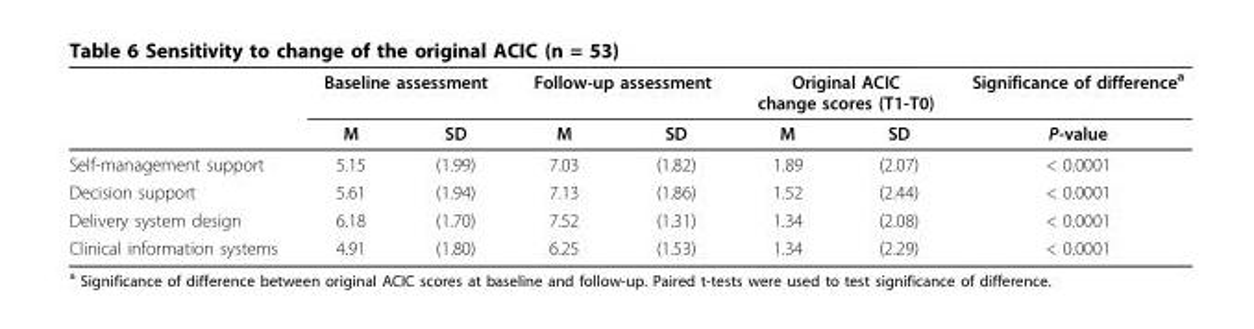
<table><thead><tr><td rowspan="2"></td><td colspan="2">Baseline assessment</td><td colspan="2">Follow-up assessment</td><td colspan="2">Original ACIC change scores (T1-T0)</td><td rowspan="2">Significance of difference<sup>a</sup> P-value</td></tr><tr><td>M</td><td>SD</td><td>M</td><td>SD</td><td>M</td><td>SD</td></tr></thead><tbody><tr><td>Self-management support</td><td>5.15</td><td>(1.99)</td><td>7.03</td><td>(1.82)</td><td>1.89</td><td>(2.07)</td><td>&lt; 0.0001</td></tr><tr><td>Decision support</td><td>5.61</td><td>(1.94)</td><td>7.13</td><td>(1.86)</td><td>1.52</td><td>(2.44)</td><td>&lt; 0.0001</td></tr><tr><td>Delivery system design</td><td>6.18</td><td>(1.70)</td><td>7.52</td><td>(1.31)</td><td>1.34</td><td>(2.08)</td><td>&lt; 0.0001</td></tr><tr><td>Clinical information systems</td><td>4.91</td><td>(1.80)</td><td>6.25</td><td>(1.53)</td><td>1.34</td><td>(2.29)</td><td>&lt; 0.0001</td></tr></tbody></table>